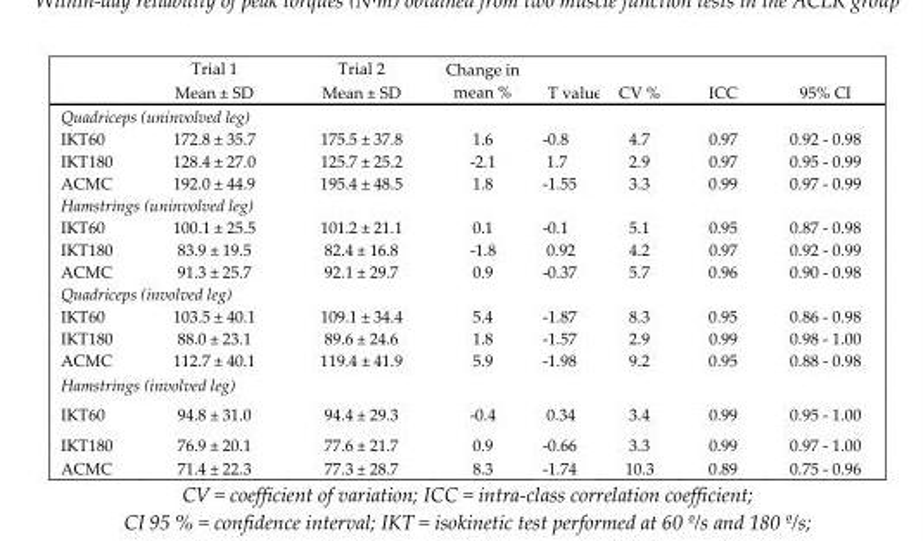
<table><thead><tr><td></td><td>Trial 1 Mean ± SD</td><td>Trial 2 Mean ± SD</td><td>Change in mean %</td><td>T value</td><td>CV %</td><td>ICC</td><td>95% CI</td></tr></thead><tbody><tr><td colspan="8">Quadriceps (uninvolved leg)</td></tr><tr><td>IKT60</td><td>172.8 ± 35.7</td><td>175.5 ± 37.8</td><td>1.6</td><td>-0.8</td><td>4.7</td><td>0.97</td><td>0.92 - 0.98</td></tr><tr><td>IKT180</td><td>128.4 ± 27.0</td><td>125.7 ± 25.2</td><td>-2.1</td><td>1.7</td><td>2.9</td><td>0.97</td><td>0.95 - 0.99</td></tr><tr><td>ACMC</td><td>192.0 ± 44.9</td><td>195.4 ± 48.5</td><td>1.8</td><td>-1.55</td><td>3.3</td><td>0.99</td><td>0.97 - 0.99</td></tr><tr><td colspan="8">Hamstrings (uninvolved leg)</td></tr><tr><td>IKT60</td><td>100.1 ± 25.5</td><td>101.2 ± 21.1</td><td>0.1</td><td>-0.1</td><td>5.1</td><td>0.95</td><td>0.87 - 0.98</td></tr><tr><td>IKT180</td><td>83.9 ± 19.5</td><td>82.4 ± 16.8</td><td>-1.8</td><td>0.92</td><td>4.2</td><td>0.97</td><td>0.92 - 0.99</td></tr><tr><td>ACMC</td><td>91.3 ± 25.7</td><td>92.1 ± 29.7</td><td>0.9</td><td>-0.37</td><td>5.7</td><td>0.96</td><td>0.90 - 0.98</td></tr><tr><td colspan="8">Quadriceps (involved leg)</td></tr><tr><td>IKT60</td><td>103.5 ± 40.1</td><td>109.1 ± 34.4</td><td>5.4</td><td>-1.87</td><td>8.3</td><td>0.95</td><td>0.86 - 0.98</td></tr><tr><td>IKT180</td><td>88.0 ± 23.1</td><td>89.6 ± 24.6</td><td>1.8</td><td>-1.57</td><td>2.9</td><td>0.99</td><td>0.98 - 1.00</td></tr><tr><td>ACMC</td><td>112.7 ± 40.1</td><td>119.4 ± 41.9</td><td>5.9</td><td>-1.98</td><td>9.2</td><td>0.95</td><td>0.88 - 0.98</td></tr><tr><td colspan="8">Hamstrings (involved leg)</td></tr><tr><td>IKT60</td><td>94.8 ± 31.0</td><td>94.4 ± 29.3</td><td>-0.4</td><td>0.34</td><td>3.4</td><td>0.99</td><td>0.95 - 1.00</td></tr><tr><td>IKT180</td><td>76.9 ± 20.1</td><td>77.6 ± 21.7</td><td>0.9</td><td>-0.66</td><td>3.3</td><td>0.99</td><td>0.97 - 1.00</td></tr><tr><td>ACMC</td><td>71.4 ± 22.3</td><td>77.3 ± 28.7</td><td>8.3</td><td>-1.74</td><td>10.3</td><td>0.89</td><td>0.75 - 0.96</td></tr></tbody></table>